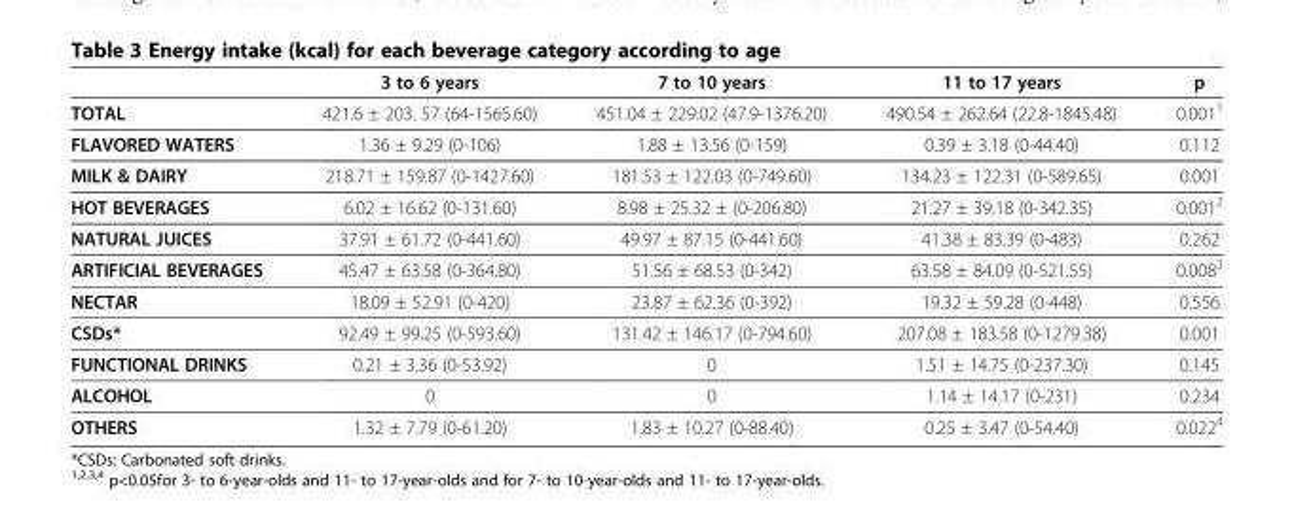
<table><thead><tr><td></td><td>3 to 6 years</td><td>7 to 10 years</td><td>11 to 17 years</td><td>p</td></tr></thead><tbody><tr><td>TOTAL</td><td>421.6 ± 203. 57 (64-1565.60)</td><td>451.04 ± 229.02 (47.9-1376.20)</td><td>490.54 ± 262.64 (22.8-1845.48)</td><td>0.001<sup>1</sup></td></tr><tr><td>FLAVORED WATERS</td><td>1.36 ± 9.29 (0-106)</td><td>1.88 ± 13.56 (0-159)</td><td>0.39 ± 3.18 (0-44.40)</td><td>0.112</td></tr><tr><td>MILK &amp; DAIRY</td><td>218.71 ± 159.87 (0-1427.60)</td><td>181.53 ± 122.03 (0-749.60)</td><td>134.23 ± 122.31 (0-589.65)</td><td>0.001</td></tr><tr><td>HOT BEVERAGES</td><td>6.02 ± 16.62 (0-131.60)</td><td>8.98 ± 25.32 ± (0-206.80)</td><td>21.27 ± 39.18 (0-342.35)</td><td>0.001<sup>2</sup></td></tr><tr><td>NATURAL JUICES</td><td>37.91 ± 61.72 (0-441.60)</td><td>49.97 ± 87.15 (0-441.60)</td><td>41.38 ± 83.39 (0-483)</td><td>0.262</td></tr><tr><td>ARTIFICIAL BEVERAGES</td><td>45.47 ± 63.58 (0-364.80)</td><td>51.56 ± 68.53 (0-342)</td><td>63.58 ± 84.09 (0-521.55)</td><td>0.008<sup>3</sup></td></tr><tr><td>NECTAR</td><td>18.09 ± 52.91 (0-420)</td><td>23.87 ± 62.36 (0-392)</td><td>19.32 ± 59.28 (0-448)</td><td>0.556</td></tr><tr><td>CSDs*</td><td>92.49 ± 99.25 (0-593.60)</td><td>131.42 ± 146.17 (0-794.60)</td><td>207.08 ± 183.58 (0-1279.38)</td><td>0.001</td></tr><tr><td>FUNCTIONAL DRINKS</td><td>0.21 ± 3.36 (0-53.92)</td><td>0</td><td>1.51 ± 14.75 (0-237.30)</td><td>0.145</td></tr><tr><td>ALCOHOL</td><td>0</td><td>0</td><td>1.14 ± 14.17 (0-231)</td><td>0.234</td></tr><tr><td>OTHERS</td><td>1.32 ± 7.79 (0-61.20)</td><td>1.83 ± 10.27 (0-88.40)</td><td>0.25 ± 3.47 (0-54.40)</td><td>0.022<sup>4</sup></td></tr></tbody></table>